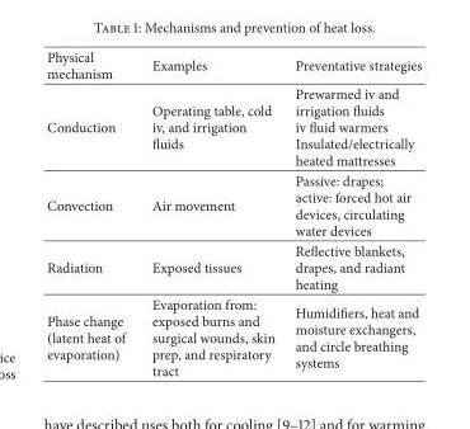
<table><thead><tr><td>Physical mechanism</td><td>Examples</td><td>Preventative strategies</td></tr></thead><tbody><tr><td>Conduction</td><td>Operating table, cold iv, and irrigation fluids</td><td>Prewarmed iv and irrigation fluids iv fluid warmers Insulated/electrically heated mattresses</td></tr><tr><td>Convection</td><td>Air movement</td><td>Passive: drapes; active: forced hot air devices, circulating water devices</td></tr><tr><td>Radiation</td><td>Exposed tissues</td><td>Reflective blankets, drapes, and radiant heating</td></tr><tr><td>Phase change (latent heat of evaporation)</td><td>Evaporation from: exposed burns and surgical wounds, skin prep, and respiratory tract</td><td>Humidifiers, heat and moisture exchangers, and circle breathing systems</td></tr></tbody></table>